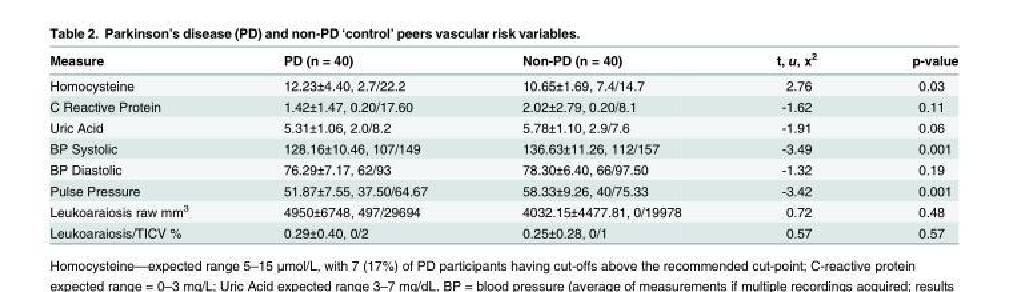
<table><thead><tr><td>Measure</td><td>PD (n = 40)</td><td>Non-PD (n = 40)</td><td>t, u, x<sup>2</sup></td><td>p-value</td></tr></thead><tbody><tr><td>Homocysteine</td><td>12.23±4.40, 2.7/22.2</td><td>10.65±1.69, 7.4/14.7</td><td>2.76</td><td>0.03</td></tr><tr><td>C Reactive Protein</td><td>1.42±1.47, 0.20/17.60</td><td>2.02±2.79, 0.20/8.1</td><td>-1.62</td><td>0.11</td></tr><tr><td>Uric Acid</td><td>5.31±1.06, 2.0/8.2</td><td>5.78±1.10, 2.9/7.6</td><td>-1.91</td><td>0.06</td></tr><tr><td>BP Systolic</td><td>128.16±10.46, 107/149</td><td>136.63±11.26, 112/157</td><td>-3.49</td><td>0.001</td></tr><tr><td>BP Diastolic</td><td>76.29±7.17, 62/93</td><td>78.30±6.40, 66/97.50</td><td>-1.32</td><td>0.19</td></tr><tr><td>Pulse Pressure</td><td>51.87±7.55, 37.50/64.67</td><td>58.33±9.26, 40/75.33</td><td>-3.42</td><td>0.001</td></tr><tr><td>Leukoaraiosis raw mm<sup>3</sup></td><td>4950±6748, 497/29694</td><td>4032.15±4477.81, 0/19978</td><td>0.72</td><td>0.48</td></tr><tr><td>Leukoaraiosis/TICV %</td><td>0.29±0.40, 0/2</td><td>0.25±0.28, 0/1</td><td>0.57</td><td>0.57</td></tr></tbody></table>